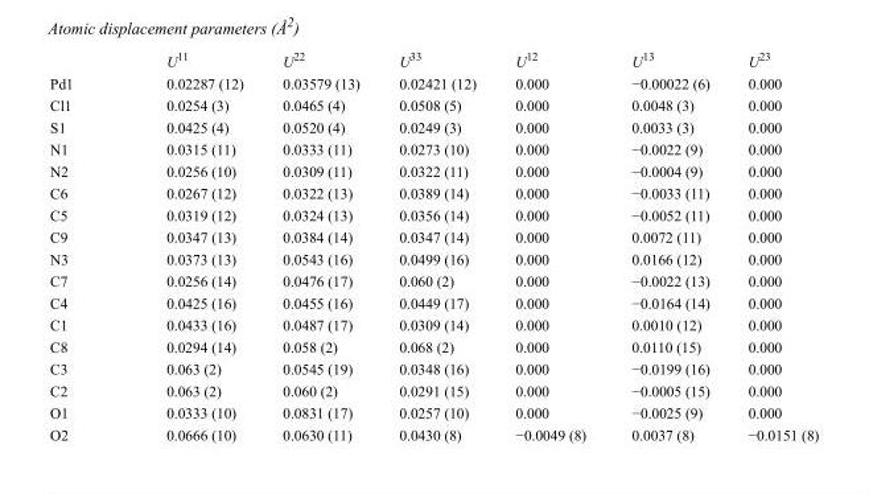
<table><thead><tr><td></td><td>U<sup>11</sup></td><td>U<sup>22</sup></td><td>U<sup>33</sup></td><td>U<sup>12</sup></td><td>U<sup>13</sup></td><td>U<sup>23</sup></td></tr></thead><tbody><tr><td>Pd1</td><td>0.02287 (12)</td><td>0.03579 (13)</td><td>0.02421 (12)</td><td>0.000</td><td>−0.00022 (6)</td><td>0.000</td></tr><tr><td>Cl1</td><td>0.0254 (3)</td><td>0.0465 (4)</td><td>0.0508 (5)</td><td>0.000</td><td>0.0048 (3)</td><td>0.000</td></tr><tr><td>S1</td><td>0.0425 (4)</td><td>0.0520 (4)</td><td>0.0249 (3)</td><td>0.000</td><td>0.0033 (3)</td><td>0.000</td></tr><tr><td>N1</td><td>0.0315 (11)</td><td>0.0333 (11)</td><td>0.0273 (10)</td><td>0.000</td><td>−0.0022 (9)</td><td>0.000</td></tr><tr><td>N2</td><td>0.0256 (10)</td><td>0.0309 (11)</td><td>0.0322 (11)</td><td>0.000</td><td>−0.0004 (9)</td><td>0.000</td></tr><tr><td>C6</td><td>0.0267 (12)</td><td>0.0322 (13)</td><td>0.0389 (14)</td><td>0.000</td><td>−0.0033 (11)</td><td>0.000</td></tr><tr><td>C5</td><td>0.0319 (12)</td><td>0.0324 (13)</td><td>0.0356 (14)</td><td>0.000</td><td>−0.0052 (11)</td><td>0.000</td></tr><tr><td>C9</td><td>0.0347 (13)</td><td>0.0384 (14)</td><td>0.0347 (14)</td><td>0.000</td><td>0.0072 (11)</td><td>0.000</td></tr><tr><td>N3</td><td>0.0373 (13)</td><td>0.0543 (16)</td><td>0.0499 (16)</td><td>0.000</td><td>0.0166 (12)</td><td>0.000</td></tr><tr><td>C7</td><td>0.0256 (14)</td><td>0.0476 (17)</td><td>0.060 (2)</td><td>0.000</td><td>−0.0022 (13)</td><td>0.000</td></tr><tr><td>C4</td><td>0.0425 (16)</td><td>0.0455 (16)</td><td>0.0449 (17)</td><td>0.000</td><td>−0.0164 (14)</td><td>0.000</td></tr><tr><td>C1</td><td>0.0433 (16)</td><td>0.0487 (17)</td><td>0.0309 (14)</td><td>0.000</td><td>0.0010 (12)</td><td>0.000</td></tr><tr><td>C8</td><td>0.0294 (14)</td><td>0.058 (2)</td><td>0.068 (2)</td><td>0.000</td><td>0.0110 (15)</td><td>0.000</td></tr><tr><td>C3</td><td>0.063 (2)</td><td>0.0545 (19)</td><td>0.0348 (16)</td><td>0.000</td><td>−0.0199 (16)</td><td>0.000</td></tr><tr><td>C2</td><td>0.063 (2)</td><td>0.060 (2)</td><td>0.0291 (15)</td><td>0.000</td><td>−0.0005 (15)</td><td>0.000</td></tr><tr><td>O1</td><td>0.0333 (10)</td><td>0.0831 (17)</td><td>0.0257 (10)</td><td>0.000</td><td>−0.0025 (9)</td><td>0.000</td></tr><tr><td>O2</td><td>0.0666 (10)</td><td>0.0630 (11)</td><td>0.0430 (8)</td><td>−0.0049 (8)</td><td>0.0037 (8)</td><td>−0.0151 (8)</td></tr></tbody></table>